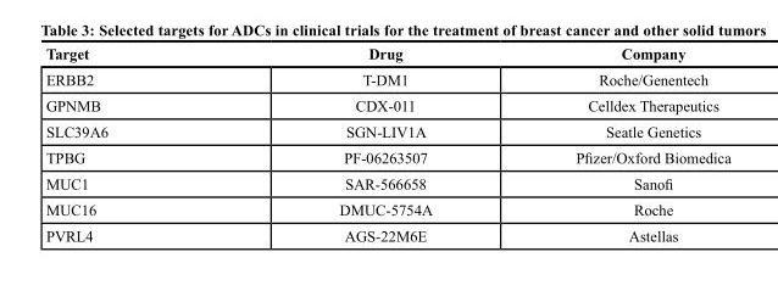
<table><thead><tr><td>Target</td><td>Drug</td><td>Company</td></tr></thead><tbody><tr><td>ERBB2</td><td>T-DM1</td><td>Roche/Genentech</td></tr><tr><td>GPNMB</td><td>CDX-011</td><td>Celldex Therapeutics</td></tr><tr><td>SLC39A6</td><td>SGN-LIV1A</td><td>Seatle Genetics</td></tr><tr><td>TPBG</td><td>PF-06263507</td><td>Pfizer/Oxford Biomedica</td></tr><tr><td>MUC1</td><td>SAR-566658</td><td>Sanofi</td></tr><tr><td>MUC16</td><td>DMUC-5754A</td><td>Roche</td></tr><tr><td>PVRL4</td><td>AGS-22M6E</td><td>Astellas</td></tr></tbody></table>